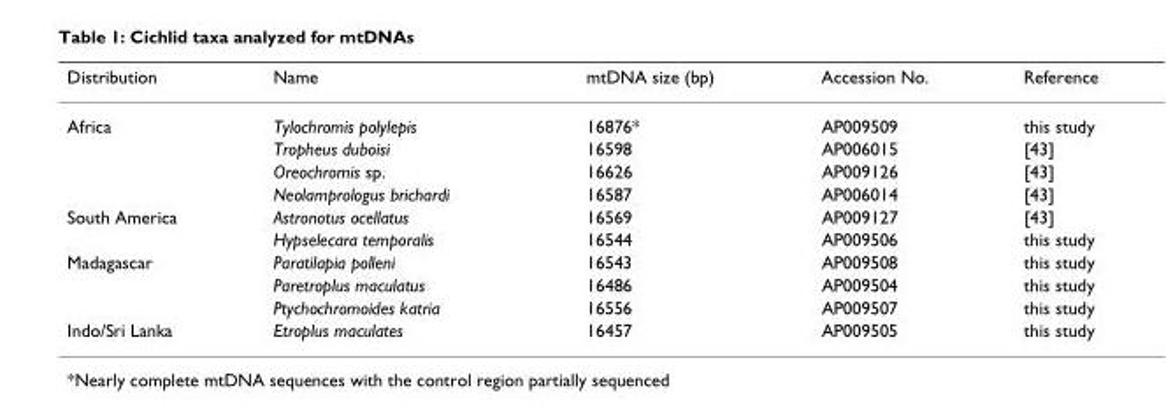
<table><thead><tr><td>Distribution</td><td>Name</td><td>mtDNA size (bp)</td><td>Accession No.</td><td>Reference</td></tr></thead><tbody><tr><td rowspan="4">Africa</td><td>Tylochromis polylepis</td><td>16876*</td><td>AP009509</td><td>this study</td></tr><tr><td>Tropheus duboisi</td><td>16598</td><td>AP006015</td><td>[43]</td></tr><tr><td>Oreochromis sp.</td><td>16626</td><td>AP009126</td><td>[43]</td></tr><tr><td>Neolamprologus brichardi</td><td>16587</td><td>AP006014</td><td>[43]</td></tr><tr><td rowspan="2">South America</td><td>Astronotus ocellatus</td><td>16569</td><td>AP009127</td><td>[43]</td></tr><tr><td>Hypselecara temporalis</td><td>16544</td><td>AP009506</td><td>this study</td></tr><tr><td rowspan="3">Madagascar</td><td>Paratilapia polleni</td><td>16543</td><td>AP009508</td><td>this study</td></tr><tr><td>Paretroplus maculatus</td><td>16486</td><td>AP009504</td><td>this study</td></tr><tr><td>Ptychochromoides katria</td><td>16556</td><td>AP009507</td><td>this study</td></tr><tr><td>Indo/Sri Lanka</td><td>Etroplus maculates</td><td>16457</td><td>AP009505</td><td>this study</td></tr></tbody></table>